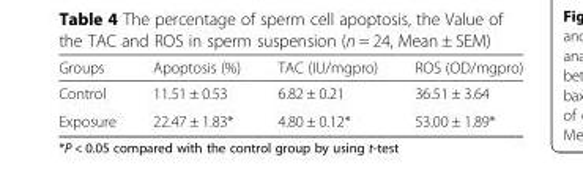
<table><thead><tr><td>Groups</td><td>Apoptosis (%)</td><td>TAC (IU/mgpro)</td><td>ROS (OD/mgpro)</td></tr></thead><tbody><tr><td>Control</td><td>11.51 ± 0.53</td><td>6.82 ± 0.21</td><td>36.51 ± 3.64</td></tr><tr><td>Exposure</td><td>22.47 ± 1.83*</td><td>4.80 ± 0.12*</td><td>53.00 ± 1.89*</td></tr></tbody></table>